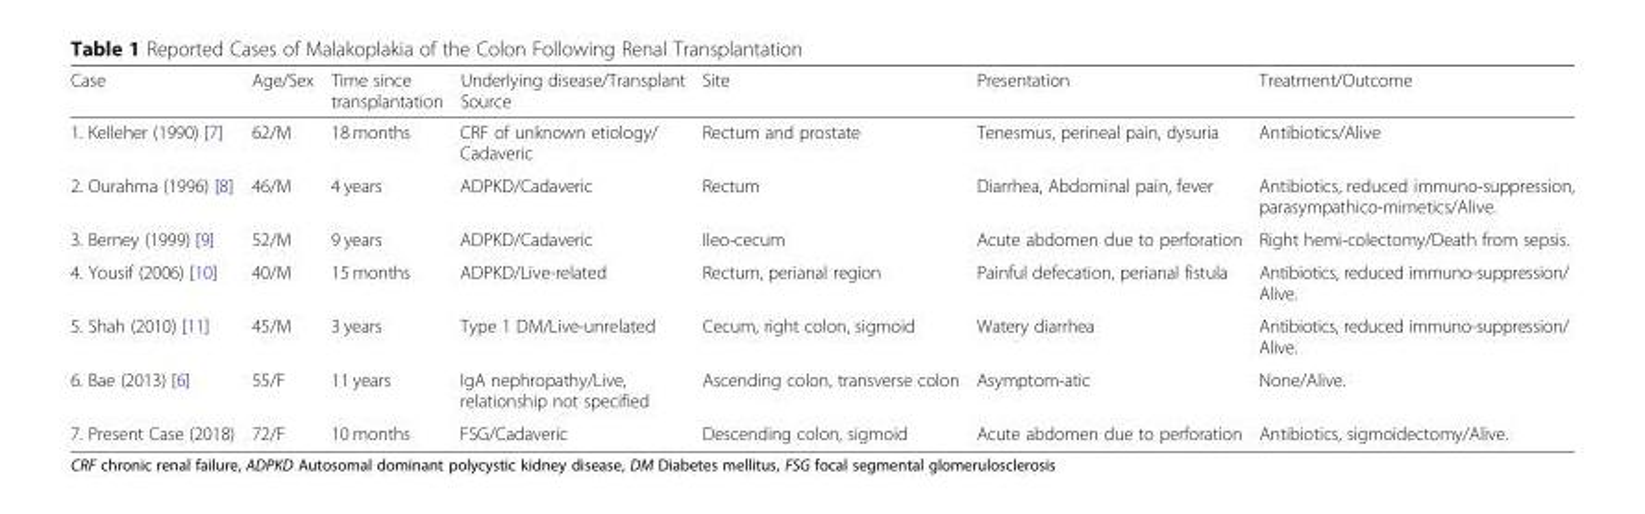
<table><thead><tr><td>Case</td><td>Age/Sex</td><td>Time since transplantation</td><td>Underlying disease/Transplant Source</td><td>Site</td><td>Presentation</td><td>Treatment/Outcome</td></tr></thead><tbody><tr><td>1. Kelleher (1990) [7]</td><td>62/M</td><td>18 months</td><td>CRF of unknown etiology/ Cadaveric</td><td>Rectum and prostate</td><td>Tenesmus, perineal pain, dysuria</td><td>Antibiotics/Alive</td></tr><tr><td>2. Ourahma (1996) [8]</td><td>46/M</td><td>4 years</td><td>ADPKD/Cadaveric</td><td>Rectum</td><td>Diarrhea, Abdominal pain, fever</td><td>Antibiotics, reduced immuno-suppression, parasympathico-mimetics/Alive.</td></tr><tr><td>3. Berney (1999) [9]</td><td>52/M</td><td>9 years</td><td>ADPKD/Cadaveric</td><td>Ileo-cecum</td><td>Acute abdomen due to perforation</td><td>Right hemi-colectomy/Death from sepsis.</td></tr><tr><td>4. Yousif (2006) [10]</td><td>40/M</td><td>15 months</td><td>ADPKD/Live-related</td><td>Rectum, perianal region</td><td>Painful defecation, perianal fistula</td><td>Antibiotics, reduced immuno-suppression/ Alive.</td></tr><tr><td>5. Shah (2010) [11]</td><td>45/M</td><td>3 years</td><td>Type 1 DM/Live-unrelated</td><td>Cecum, right colon, sigmoid</td><td>Watery diarrhea</td><td>Antibiotics, reduced immuno-suppression/ Alive.</td></tr><tr><td>6. Bae (2013) [6]</td><td>55/F</td><td>11 years</td><td>IgA nephropathy/Live, relationship not specified</td><td>Ascending colon, transverse colon</td><td>Asymptom-atic</td><td>None/Alive.</td></tr><tr><td>7. Present Case (2018)</td><td>72/F</td><td>10 months</td><td>FSG/Cadaveric</td><td>Descending colon, sigmoid</td><td>Acute abdomen due to perforation</td><td>Antibiotics, sigmoidectomy/Alive.</td></tr></tbody></table>